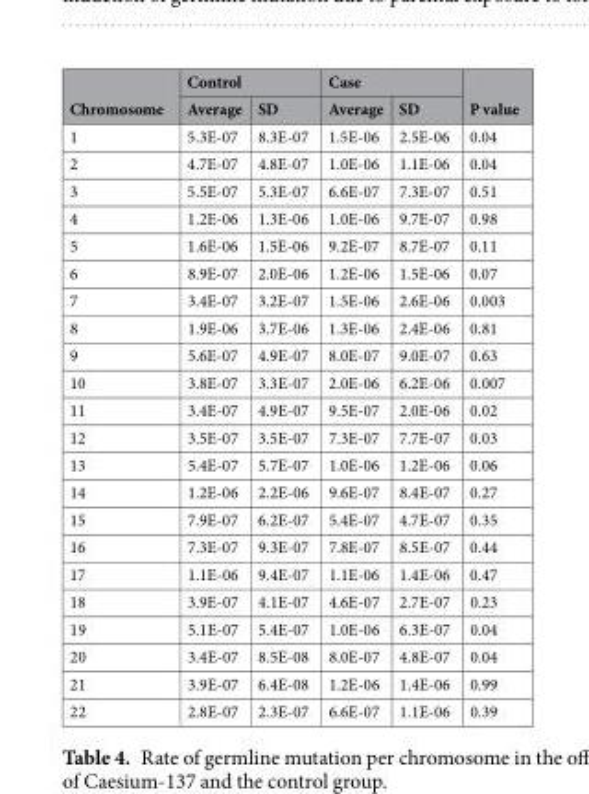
<table><thead><tr><td rowspan="2">Chromosome</td><td colspan="2">Control</td><td colspan="2">Case</td><td rowspan="2">P value</td></tr><tr><td>Average</td><td>SD</td><td>Average</td><td>SD</td></tr></thead><tbody><tr><td>1</td><td>5.3E-07</td><td>8.3E-07</td><td>1.5E-06</td><td>2.5E-06</td><td>0.04</td></tr><tr><td>2</td><td>4.7E-07</td><td>4.8E-07</td><td>1.0E-06</td><td>1.1E-06</td><td>0.04</td></tr><tr><td>3</td><td>5.5E-07</td><td>5.3E-07</td><td>6.6E-07</td><td>7.3E-07</td><td>0.51</td></tr><tr><td>4</td><td>1.2E-06</td><td>1.3E-06</td><td>1.0E-06</td><td>9.7E-07</td><td>0.98</td></tr><tr><td>5</td><td>1.6E-06</td><td>1.5E-06</td><td>9.2E-07</td><td>8.7E-07</td><td>0.11</td></tr><tr><td>6</td><td>8.9E-07</td><td>2.0E-06</td><td>1.2E-06</td><td>1.5E-06</td><td>0.07</td></tr><tr><td>7</td><td>3.4E-07</td><td>3.2E-07</td><td>1.5E-06</td><td>2.6E-06</td><td>0.003</td></tr><tr><td>8</td><td>1.9E-06</td><td>3.7E-06</td><td>1.3E-06</td><td>2.4E-06</td><td>0.81</td></tr><tr><td>9</td><td>5.6E-07</td><td>4.9E-07</td><td>8.0E-07</td><td>9.0E-07</td><td>0.63</td></tr><tr><td>10</td><td>3.8E-07</td><td>3.3E-07</td><td>2.0E-06</td><td>6.2E-06</td><td>0.007</td></tr><tr><td>11</td><td>3.4E-07</td><td>4.9E-07</td><td>9.5E-07</td><td>2.0E-06</td><td>0.02</td></tr><tr><td>12</td><td>3.5E-07</td><td>3.5E-07</td><td>7.3E-07</td><td>7.7E-07</td><td>0.03</td></tr><tr><td>13</td><td>5.4E-07</td><td>5.7E-07</td><td>1.0E-06</td><td>1.2E-06</td><td>0.06</td></tr><tr><td>14</td><td>1.2E-06</td><td>2.2E-06</td><td>9.6E-07</td><td>8.4E-07</td><td>0.27</td></tr><tr><td>15</td><td>7.9E-07</td><td>6.2E-07</td><td>5.4E-07</td><td>4.7E-07</td><td>0.35</td></tr><tr><td>16</td><td>7.3E-07</td><td>9.3E-07</td><td>7.8E-07</td><td>8.5E-07</td><td>0.44</td></tr><tr><td>17</td><td>1.1E-06</td><td>9.4E-07</td><td>1.1E-06</td><td>1.4E-06</td><td>0.47</td></tr><tr><td>18</td><td>3.9E-07</td><td>4.1E-07</td><td>4.6E-07</td><td>2.7E-07</td><td>0.23</td></tr><tr><td>19</td><td>5.1E-07</td><td>5.4E-07</td><td>1.0E-06</td><td>6.3E-07</td><td>0.04</td></tr><tr><td>20</td><td>3.4E-07</td><td>8.5E-08</td><td>8.0E-07</td><td>4.8E-07</td><td>0.04</td></tr><tr><td>21</td><td>3.9E-07</td><td>6.4E-08</td><td>1.2E-06</td><td>1.4E-06</td><td>0.99</td></tr><tr><td>22</td><td>2.8E-07</td><td>2.3E-07</td><td>6.6E-07</td><td>1.1E-06</td><td>0.39</td></tr></tbody></table>